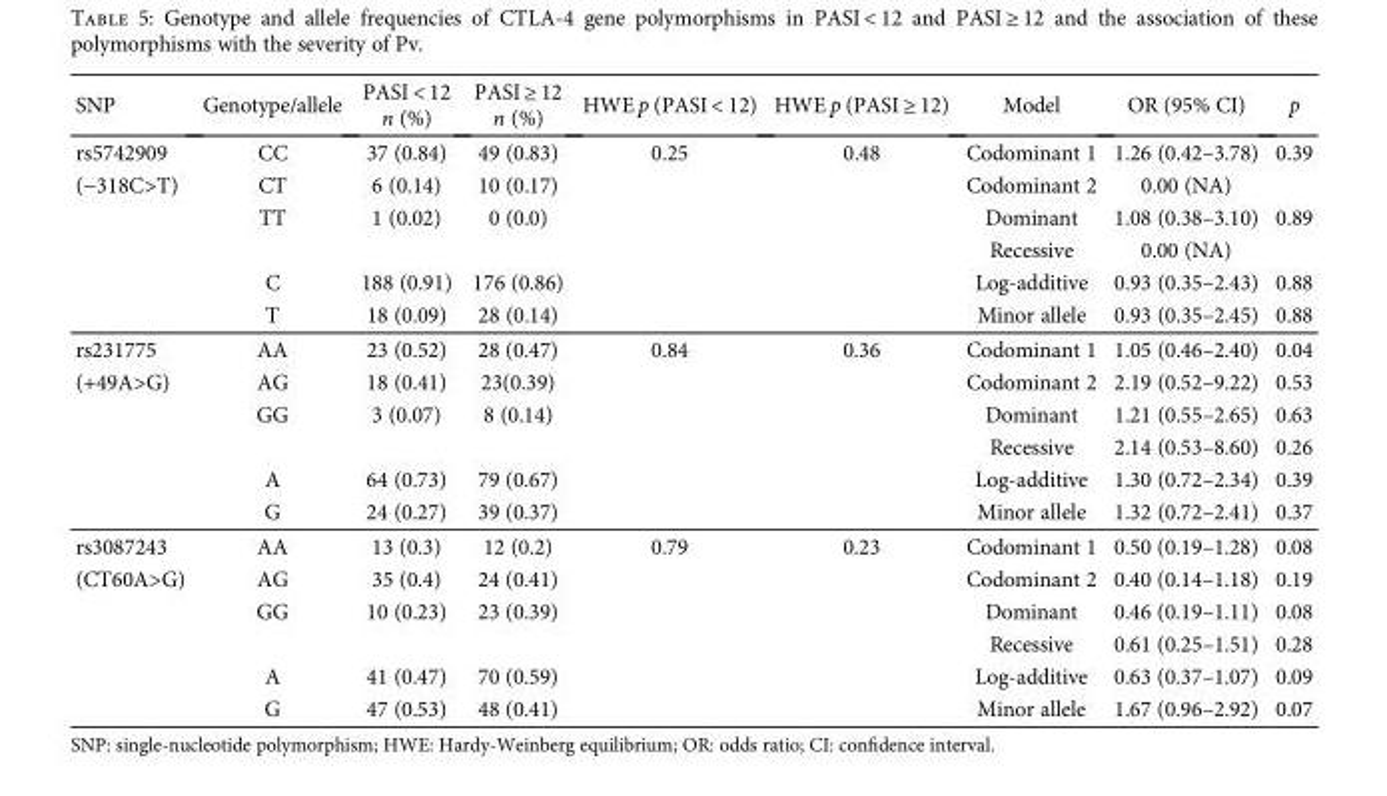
<table><thead><tr><td>SNP</td><td>Genotype/allele</td><td>PASI &lt; 12 n (%)</td><td>PASI ≥ 12 n (%)</td><td>HWE p (PASI &lt; 12)</td><td>HWE p (PASI ≥ 12)</td><td>Model</td><td>OR (95% CI)</td><td>p</td></tr></thead><tbody><tr><td>rs5742909</td><td>CC</td><td>37 (0.84)</td><td>49 (0.83)</td><td>0.25</td><td>0.48</td><td>Codominant 1</td><td>1.26 (0.42–3.78)</td><td>0.39</td></tr><tr><td rowspan="5">(−318C&gt;T)</td><td>CT</td><td>6 (0.14)</td><td>10 (0.17)</td><td></td><td></td><td>Codominant 2</td><td>0.00 (NA)</td><td></td></tr><tr><td>TT</td><td>1 (0.02)</td><td>0 (0.0)</td><td></td><td></td><td>Dominant</td><td>1.08 (0.38–3.10)</td><td>0.89</td></tr><tr><td></td><td></td><td></td><td></td><td></td><td>Recessive</td><td>0.00 (NA)</td><td></td></tr><tr><td>C</td><td>188 (0.91)</td><td>176 (0.86)</td><td></td><td></td><td>Log-additive</td><td>0.93 (0.35–2.43)</td><td>0.88</td></tr><tr><td>T</td><td>18 (0.09)</td><td>28 (0.14)</td><td></td><td></td><td>Minor allele</td><td>0.93 (0.35–2.45)</td><td>0.88</td></tr><tr><td>rs231775</td><td>AA</td><td>23 (0.52)</td><td>28 (0.47)</td><td>0.84</td><td>0.36</td><td>Codominant 1</td><td>1.05 (0.46–2.40)</td><td>0.04</td></tr><tr><td rowspan="5">(+49A&gt;G)</td><td>AG</td><td>18 (0.41)</td><td>23(0.39)</td><td></td><td></td><td>Codominant 2</td><td>2.19 (0.52–9.22)</td><td>0.53</td></tr><tr><td>GG</td><td>3 (0.07)</td><td>8 (0.14)</td><td></td><td></td><td>Dominant</td><td>1.21 (0.55–2.65)</td><td>0.63</td></tr><tr><td></td><td></td><td></td><td></td><td></td><td>Recessive</td><td>2.14 (0.53–8.60)</td><td>0.26</td></tr><tr><td>A</td><td>64 (0.73)</td><td>79 (0.67)</td><td></td><td></td><td>Log-additive</td><td>1.30 (0.72–2.34)</td><td>0.39</td></tr><tr><td>G</td><td>24 (0.27)</td><td>39 (0.37)</td><td></td><td></td><td>Minor allele</td><td>1.32 (0.72–2.41)</td><td>0.37</td></tr><tr><td>rs3087243</td><td>AA</td><td>13 (0.3)</td><td>12 (0.2)</td><td>0.79</td><td>0.23</td><td>Codominant 1</td><td>0.50 (0.19–1.28)</td><td>0.08</td></tr><tr><td rowspan="5">(CT60A&gt;G)</td><td>AG</td><td>35 (0.4)</td><td>24 (0.41)</td><td></td><td></td><td>Codominant 2</td><td>0.40 (0.14–1.18)</td><td>0.19</td></tr><tr><td>GG</td><td>10 (0.23)</td><td>23 (0.39)</td><td></td><td></td><td>Dominant</td><td>0.46 (0.19–1.11)</td><td>0.08</td></tr><tr><td></td><td></td><td></td><td></td><td></td><td>Recessive</td><td>0.61 (0.25–1.51)</td><td>0.28</td></tr><tr><td>A</td><td>41 (0.47)</td><td>70 (0.59)</td><td></td><td></td><td>Log-additive</td><td>0.63 (0.37–1.07)</td><td>0.09</td></tr><tr><td>G</td><td>47 (0.53)</td><td>48 (0.41)</td><td></td><td></td><td>Minor allele</td><td>1.67 (0.96–2.92)</td><td>0.07</td></tr></tbody></table>